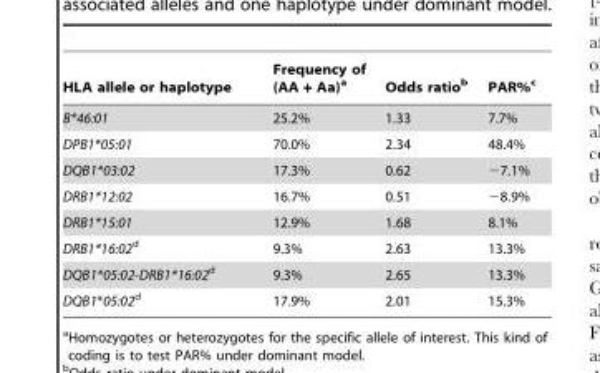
<table><thead><tr><td>HLA allele or haplotype</td><td>Frequency of (AA + Aa)<sup>a</sup></td><td>Odds ratio<sup>b</sup></td><td>PAR%<sup>c</sup></td></tr></thead><tbody><tr><td>B*46:01</td><td>25.2%</td><td>1.33</td><td>7.7%</td></tr><tr><td>DPB1*05:01</td><td>70.0%</td><td>2.34</td><td>48.4%</td></tr><tr><td>DQB1*03:02</td><td>17.3%</td><td>0.62</td><td>−7.1%</td></tr><tr><td>DRB1*12:02</td><td>16.7%</td><td>0.51</td><td>−8.9%</td></tr><tr><td>DRB1*15:01</td><td>12.9%</td><td>1.68</td><td>8.1%</td></tr><tr><td>DRB1*16:02d</td><td>9.3%</td><td>2.63</td><td>13.3%</td></tr><tr><td>DQB1*05:02-DRB1*16:02d</td><td>9.3%</td><td>2.65</td><td>13.3%</td></tr><tr><td>DQB1*05:02d</td><td>17.9%</td><td>2.01</td><td>15.3%</td></tr></tbody></table>